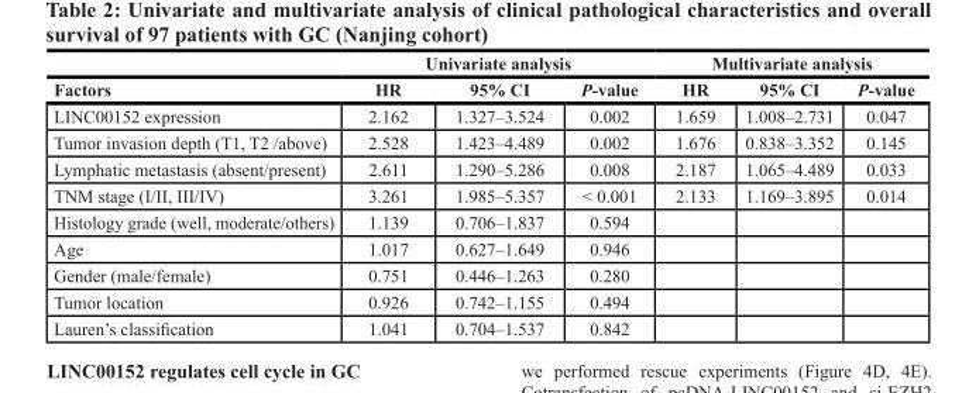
<table><thead><tr><td rowspan="2">Factors</td><td colspan="3">Univariate analysis</td><td colspan="3">Multivariate analysis</td></tr><tr><td>HR</td><td>95% CI</td><td>P-value</td><td>HR</td><td>95% CI</td><td>P-value</td></tr></thead><tbody><tr><td>LINC00152 expression</td><td>2.162</td><td>1.327–3.524</td><td>0.002</td><td>1.659</td><td>1.008–2.731</td><td>0.047</td></tr><tr><td>Tumor invasion depth (T1, T2 /above)</td><td>2.528</td><td>1.423–4.489</td><td>0.002</td><td>1.676</td><td>0.838–3.352</td><td>0.145</td></tr><tr><td>Lymphatic metastasis (absent/present)</td><td>2.611</td><td>1.290–5.286</td><td>0.008</td><td>2.187</td><td>1.065–4.489</td><td>0.033</td></tr><tr><td>TNM stage (I/II, III/IV)</td><td>3.261</td><td>1.985–5.357</td><td>&lt; 0.001</td><td>2.133</td><td>1.169–3.895</td><td>0.014</td></tr><tr><td>Histology grade (well, moderate/others)</td><td>1.139</td><td>0.706–1.837</td><td>0.594</td><td></td><td></td><td></td></tr><tr><td>Age</td><td>1.017</td><td>0.627–1.649</td><td>0.946</td><td></td><td></td><td></td></tr><tr><td>Gender (male/female)</td><td>0.751</td><td>0.446–1.263</td><td>0.280</td><td></td><td></td><td></td></tr><tr><td>Tumor location</td><td>0.926</td><td>0.742–1.155</td><td>0.494</td><td></td><td></td><td></td></tr><tr><td>Lauren’s classification</td><td>1.041</td><td>0.704–1.537</td><td>0.842</td><td></td><td></td><td></td></tr></tbody></table>